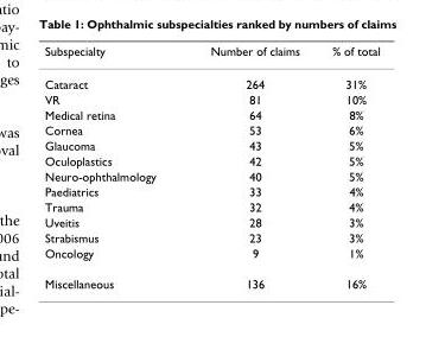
<table><thead><tr><td>Subspecialty</td><td>Number of claims</td><td>% of total</td></tr></thead><tbody><tr><td>Cataract</td><td>264</td><td>31%</td></tr><tr><td>VR</td><td>81</td><td>10%</td></tr><tr><td>Medical retina</td><td>64</td><td>8%</td></tr><tr><td>Cornea</td><td>53</td><td>6%</td></tr><tr><td>Glaucoma</td><td>43</td><td>5%</td></tr><tr><td>Oculoplastics</td><td>42</td><td>5%</td></tr><tr><td>Neuro-ophthalmology</td><td>40</td><td>5%</td></tr><tr><td>Paediatrics</td><td>33</td><td>4%</td></tr><tr><td>Trauma</td><td>32</td><td>4%</td></tr><tr><td>Uveitis</td><td>28</td><td>3%</td></tr><tr><td>Strabismus</td><td>23</td><td>3%</td></tr><tr><td>Oncology</td><td>9</td><td>1%</td></tr><tr><td>Miscellaneous</td><td>136</td><td>16%</td></tr></tbody></table>